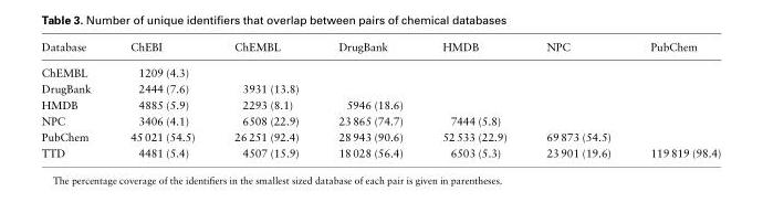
<table><thead><tr><td>Database</td><td>ChEBI</td><td>ChEMBL</td><td>DrugBank</td><td>HMDB</td><td>NPC</td><td>PubChem</td></tr></thead><tbody><tr><td>ChEMBL</td><td>1209 (4.3)</td><td></td><td></td><td></td><td></td><td></td></tr><tr><td>DrugBank</td><td>2444 (7.6)</td><td>3931 (13.8)</td><td></td><td></td><td></td><td></td></tr><tr><td>HMDB</td><td>4885 (5.9)</td><td>2293 (8.1)</td><td>5946 (18.6)</td><td></td><td></td><td></td></tr><tr><td>NPC</td><td>3406 (4.1)</td><td>6508 (22.9)</td><td>23 865 (74.7)</td><td>7444 (5.8)</td><td></td><td></td></tr><tr><td>PubChem</td><td>45 021 (54.5)</td><td>26 251 (92.4)</td><td>28 943 (90.6)</td><td>52 533 (22.9)</td><td>69 873 (54.5)</td><td></td></tr><tr><td>TTD</td><td>4481 (5.4)</td><td>4507 (15.9)</td><td>18 028 (56.4)</td><td>6503 (5.3)</td><td>23 901 (19.6)</td><td>119 819 (98.4)</td></tr></tbody></table>